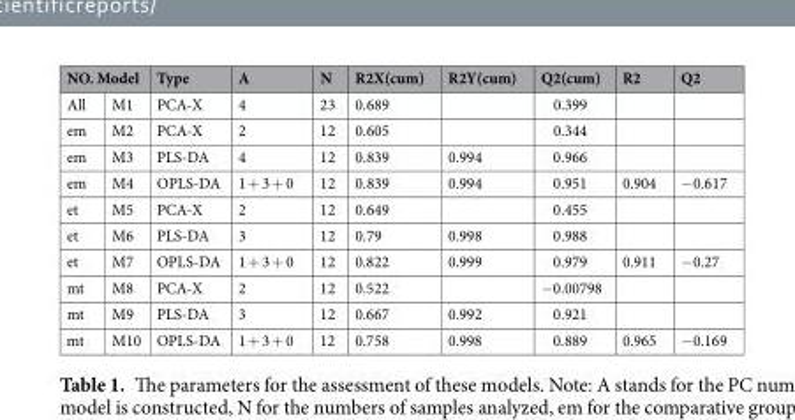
<table><thead><tr><td colspan="2">NO. Model</td><td rowspan="2">Type PCA-X</td><td rowspan="2">A 4</td><td rowspan="2">N 23</td><td rowspan="2">R2X(cum) 0.689</td><td rowspan="2">R2Y(cum)</td><td rowspan="2">Q2(cum) 0.399</td><td rowspan="2">R2</td><td rowspan="2">Q2</td></tr><tr><td>All</td><td>M1</td></tr></thead><tbody><tr><td>em</td><td>M2</td><td>PCA-X</td><td>2</td><td>12</td><td>0.605</td><td></td><td>0.344</td><td></td><td></td></tr><tr><td>em</td><td>M3</td><td>PLS-DA</td><td>4</td><td>12</td><td>0.839</td><td>0.994</td><td>0.966</td><td></td><td></td></tr><tr><td>em</td><td>M4</td><td>OPLS-DA</td><td>1 + 3 + 0</td><td>12</td><td>0.839</td><td>0.994</td><td>0.951</td><td>0.904</td><td>−0.617</td></tr><tr><td>et</td><td>M5</td><td>PCA-X</td><td>2</td><td>12</td><td>0.649</td><td></td><td>0.455</td><td></td><td></td></tr><tr><td>et</td><td>M6</td><td>PLS-DA</td><td>3</td><td>12</td><td>0.79</td><td>0.998</td><td>0.988</td><td></td><td></td></tr><tr><td>et</td><td>M7</td><td>OPLS-DA</td><td>1 + 3 + 0</td><td>12</td><td>0.822</td><td>0.999</td><td>0.979</td><td>0.911</td><td>−0.27</td></tr><tr><td>mt</td><td>M8</td><td>PCA-X</td><td>2</td><td>12</td><td>0.522</td><td></td><td>−0.00798</td><td></td><td></td></tr><tr><td>mt</td><td>M9</td><td>PLS-DA</td><td>3</td><td>12</td><td>0.667</td><td>0.992</td><td>0.921</td><td></td><td></td></tr><tr><td>mt</td><td>M10</td><td>OPLS-DA</td><td>1 + 3 + 0</td><td>12</td><td>0.758</td><td>0.998</td><td>0.889</td><td>0.965</td><td>−0.169</td></tr></tbody></table>